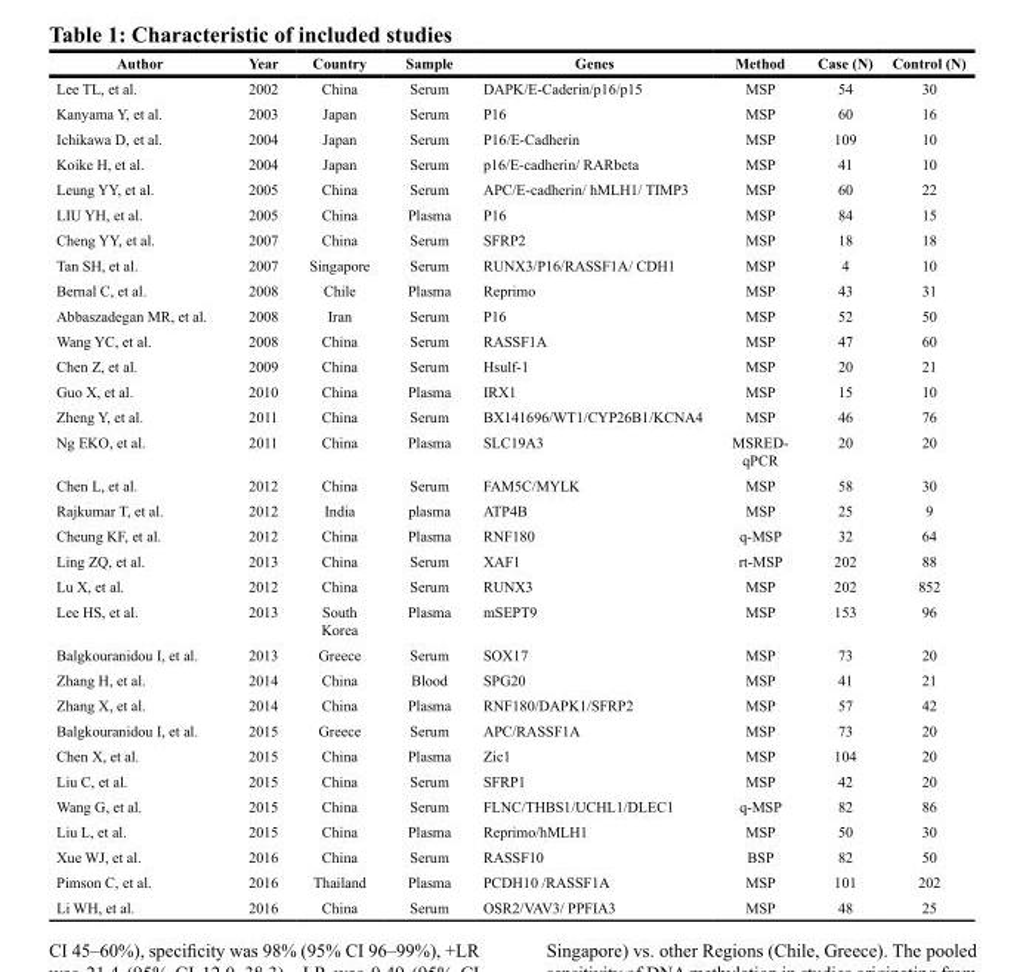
<table><thead><tr><td>Author</td><td>Year</td><td>Country</td><td>Sample</td><td>Genes</td><td>Method</td><td>Case (N)</td><td>Control (N)</td></tr></thead><tbody><tr><td>Lee TL, et al.</td><td>2002</td><td>China</td><td>Serum</td><td>DAPK/E-Caderin/p16/p15</td><td>MSP</td><td>54</td><td>30</td></tr><tr><td>Kanyama Y, et al.</td><td>2003</td><td>Japan</td><td>Serum</td><td>P16</td><td>MSP</td><td>60</td><td>16</td></tr><tr><td>Ichikawa D, et al.</td><td>2004</td><td>Japan</td><td>Serum</td><td>P16/E-Cadherin</td><td>MSP</td><td>109</td><td>10</td></tr><tr><td>Koike H, et al.</td><td>2004</td><td>Japan</td><td>Serum</td><td>p16/E-cadherin/ RARbeta</td><td>MSP</td><td>41</td><td>10</td></tr><tr><td>Leung YY, et al.</td><td>2005</td><td>China</td><td>Serum</td><td>APC/E-cadherin/ hMLH1/ TIMP3</td><td>MSP</td><td>60</td><td>22</td></tr><tr><td>LIU YH, et al.</td><td>2005</td><td>China</td><td>Plasma</td><td>P16</td><td>MSP</td><td>84</td><td>15</td></tr><tr><td>Cheng YY, et al.</td><td>2007</td><td>China</td><td>Serum</td><td>SFRP2</td><td>MSP</td><td>18</td><td>18</td></tr><tr><td>Tan SH, et al.</td><td>2007</td><td>Singapore</td><td>Serum</td><td>RUNX3/P16/RASSF1A/ CDH1</td><td>MSP</td><td>4</td><td>10</td></tr><tr><td>Bernal C, et al.</td><td>2008</td><td>Chile</td><td>Plasma</td><td>Reprimo</td><td>MSP</td><td>43</td><td>31</td></tr><tr><td>Abbaszadegan MR, et al.</td><td>2008</td><td>Iran</td><td>Serum</td><td>P16</td><td>MSP</td><td>52</td><td>50</td></tr><tr><td>Wang YC, et al.</td><td>2008</td><td>China</td><td>Serum</td><td>RASSF1A</td><td>MSP</td><td>47</td><td>60</td></tr><tr><td>Chen Z, et al.</td><td>2009</td><td>China</td><td>Serum</td><td>Hsulf-1</td><td>MSP</td><td>20</td><td>21</td></tr><tr><td>Guo X, et al.</td><td>2010</td><td>China</td><td>Plasma</td><td>IRX1</td><td>MSP</td><td>15</td><td>10</td></tr><tr><td>Zheng Y, et al.</td><td>2011</td><td>China</td><td>Serum</td><td>BX141696/WT1/CYP26B1/KCNA4</td><td>MSP</td><td>46</td><td>76</td></tr><tr><td>Ng EKO, et al.</td><td>2011</td><td>China</td><td>Plasma</td><td>SLC19A3</td><td>MSRED- qPCR</td><td>20</td><td>20</td></tr><tr><td>Chen L, et al.</td><td>2012</td><td>China</td><td>Serum</td><td>FAM5C/MYLK</td><td>MSP</td><td>58</td><td>30</td></tr><tr><td>Rajkumar T, et al.</td><td>2012</td><td>India</td><td>plasma</td><td>ATP4B</td><td>MSP</td><td>25</td><td>9</td></tr><tr><td>Cheung KF, et al.</td><td>2012</td><td>China</td><td>Plasma</td><td>RNF180</td><td>q-MSP</td><td>32</td><td>64</td></tr><tr><td>Ling ZQ, et al.</td><td>2013</td><td>China</td><td>Serum</td><td>XAF1</td><td>rt-MSP</td><td>202</td><td>88</td></tr><tr><td>Lu X, et al.</td><td>2012</td><td>China</td><td>Serum</td><td>RUNX3</td><td>MSP</td><td>202</td><td>852</td></tr><tr><td>Lee HS, et al.</td><td>2013</td><td>South Korea</td><td>Plasma</td><td>mSEPT9</td><td>MSP</td><td>153</td><td>96</td></tr><tr><td>Balgkouranidou I, et al.</td><td>2013</td><td>Greece</td><td>Serum</td><td>SOX17</td><td>MSP</td><td>73</td><td>20</td></tr><tr><td>Zhang H, et al.</td><td>2014</td><td>China</td><td>Blood</td><td>SPG20</td><td>MSP</td><td>41</td><td>21</td></tr><tr><td>Zhang X, et al.</td><td>2014</td><td>China</td><td>Plasma</td><td>RNF180/DAPK1/SFRP2</td><td>MSP</td><td>57</td><td>42</td></tr><tr><td>Balgkouranidou I, et al.</td><td>2015</td><td>Greece</td><td>Serum</td><td>APC/RASSF1A</td><td>MSP</td><td>73</td><td>20</td></tr><tr><td>Chen X, et al.</td><td>2015</td><td>China</td><td>Plasma</td><td>Zic1</td><td>MSP</td><td>104</td><td>20</td></tr><tr><td>Liu C, et al.</td><td>2015</td><td>China</td><td>Serum</td><td>SFRP1</td><td>MSP</td><td>42</td><td>20</td></tr><tr><td>Wang G, et al.</td><td>2015</td><td>China</td><td>Serum</td><td>FLNC/THBS1/UCHL1/DLEC1</td><td>q-MSP</td><td>82</td><td>86</td></tr><tr><td>Liu L, et al.</td><td>2015</td><td>China</td><td>Plasma</td><td>Reprimo/hMLH1</td><td>MSP</td><td>50</td><td>30</td></tr><tr><td>Xue WJ, et al.</td><td>2016</td><td>China</td><td>Serum</td><td>RASSF10</td><td>BSP</td><td>82</td><td>50</td></tr><tr><td>Pimson C, et al.</td><td>2016</td><td>Thailand</td><td>Plasma</td><td>PCDH10 /RASSF1A</td><td>MSP</td><td>101</td><td>202</td></tr><tr><td>Li WH, et al.</td><td>2016</td><td>China</td><td>Serum</td><td>OSR2/VAV3/ PPFIA3</td><td>MSP</td><td>48</td><td>25</td></tr></tbody></table>